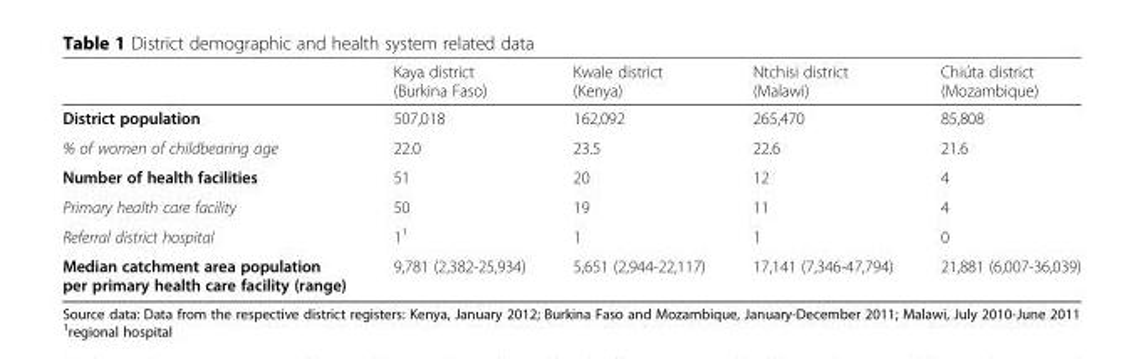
<table><thead><tr><td></td><td>Kaya district (Burkina Faso)</td><td>Kwale district (Kenya)</td><td>Ntchisi district (Malawi)</td><td>Chiúta district (Mozambique)</td></tr></thead><tbody><tr><td>District population</td><td>507,018</td><td>162,092</td><td>265,470</td><td>85,808</td></tr><tr><td>% of women of childbearing age</td><td>22.0</td><td>23.5</td><td>22.6</td><td>21.6</td></tr><tr><td>Number of health facilities</td><td>51</td><td>20</td><td>12</td><td>4</td></tr><tr><td>Primary health care facility</td><td>50</td><td>19</td><td>11</td><td>4</td></tr><tr><td>Referral district hospital</td><td>1<sup>1</sup></td><td>1</td><td>1</td><td>0</td></tr><tr><td>Median catchment area population per primary health care facility (range)</td><td>9,781 (2,382-25,934)</td><td>5,651 (2,944-22,117)</td><td>17,141 (7,346-47,794)</td><td>21,881 (6,007-36,039)</td></tr></tbody></table>